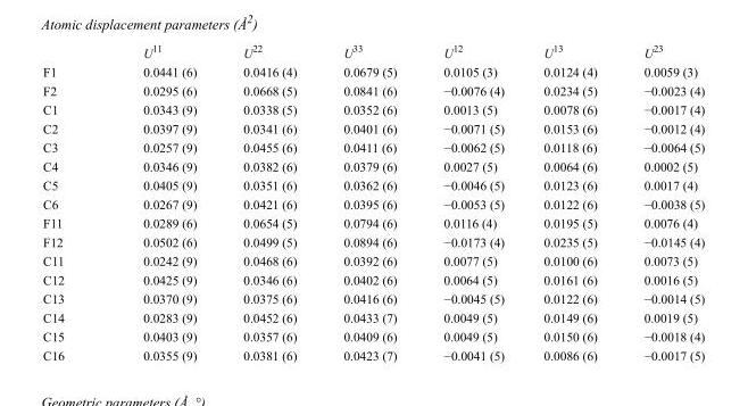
<table><thead><tr><td></td><td>U<sup>11</sup></td><td>U<sup>22</sup></td><td>U<sup>33</sup></td><td>U<sup>12</sup></td><td>U<sup>13</sup></td><td>U<sup>23</sup></td></tr></thead><tbody><tr><td>F1</td><td>0.0441 (6)</td><td>0.0416 (4)</td><td>0.0679 (5)</td><td>0.0105 (3)</td><td>0.0124 (4)</td><td>0.0059 (3)</td></tr><tr><td>F2</td><td>0.0295 (6)</td><td>0.0668 (5)</td><td>0.0841 (6)</td><td>−0.0076 (4)</td><td>0.0234 (5)</td><td>−0.0023 (4)</td></tr><tr><td>C1</td><td>0.0343 (9)</td><td>0.0338 (5)</td><td>0.0352 (6)</td><td>0.0013 (5)</td><td>0.0078 (6)</td><td>−0.0017 (4)</td></tr><tr><td>C2</td><td>0.0397 (9)</td><td>0.0341 (6)</td><td>0.0401 (6)</td><td>−0.0071 (5)</td><td>0.0153 (6)</td><td>−0.0012 (4)</td></tr><tr><td>C3</td><td>0.0257 (9)</td><td>0.0455 (6)</td><td>0.0411 (6)</td><td>−0.0062 (5)</td><td>0.0118 (6)</td><td>−0.0064 (5)</td></tr><tr><td>C4</td><td>0.0346 (9)</td><td>0.0382 (6)</td><td>0.0379 (6)</td><td>0.0027 (5)</td><td>0.0064 (6)</td><td>0.0002 (5)</td></tr><tr><td>C5</td><td>0.0405 (9)</td><td>0.0351 (6)</td><td>0.0362 (6)</td><td>−0.0046 (5)</td><td>0.0123 (6)</td><td>0.0017 (4)</td></tr><tr><td>C6</td><td>0.0267 (9)</td><td>0.0421 (6)</td><td>0.0395 (6)</td><td>−0.0053 (5)</td><td>0.0122 (6)</td><td>−0.0038 (5)</td></tr><tr><td>F11</td><td>0.0289 (6)</td><td>0.0654 (5)</td><td>0.0794 (6)</td><td>0.0116 (4)</td><td>0.0195 (5)</td><td>0.0076 (4)</td></tr><tr><td>F12</td><td>0.0502 (6)</td><td>0.0499 (5)</td><td>0.0894 (6)</td><td>−0.0173 (4)</td><td>0.0235 (5)</td><td>−0.0145 (4)</td></tr><tr><td>C11</td><td>0.0242 (9)</td><td>0.0468 (6)</td><td>0.0392 (6)</td><td>0.0077 (5)</td><td>0.0100 (6)</td><td>0.0073 (5)</td></tr><tr><td>C12</td><td>0.0425 (9)</td><td>0.0346 (6)</td><td>0.0402 (6)</td><td>0.0064 (5)</td><td>0.0161 (6)</td><td>0.0016 (5)</td></tr><tr><td>C13</td><td>0.0370 (9)</td><td>0.0375 (6)</td><td>0.0416 (6)</td><td>−0.0045 (5)</td><td>0.0122 (6)</td><td>−0.0014 (5)</td></tr><tr><td>C14</td><td>0.0283 (9)</td><td>0.0452 (6)</td><td>0.0433 (7)</td><td>0.0049 (5)</td><td>0.0149 (6)</td><td>0.0019 (5)</td></tr><tr><td>C15</td><td>0.0403 (9)</td><td>0.0357 (6)</td><td>0.0409 (6)</td><td>0.0049 (5)</td><td>0.0150 (6)</td><td>−0.0018 (4)</td></tr><tr><td>C16</td><td>0.0355 (9)</td><td>0.0381 (6)</td><td>0.0423 (7)</td><td>−0.0041 (5)</td><td>0.0086 (6)</td><td>−0.0017 (5)</td></tr></tbody></table>